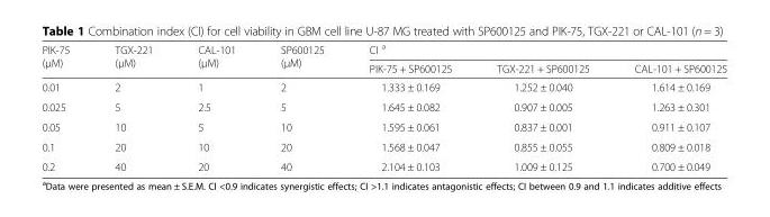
<table><thead><tr><td rowspan="2">PIK-75 (μM)</td><td rowspan="2">TGX-221 (μM)</td><td rowspan="2">CAL-101 (μM)</td><td rowspan="2">SP600125 (μM)</td><td colspan="3">CI <sup>a</sup></td></tr><tr><td>PIK-75 + SP600125</td><td>TGX-221 + SP600125</td><td>CAL-101 + SP600125</td></tr></thead><tbody><tr><td>0.01</td><td>2</td><td>1</td><td>2</td><td>1.333 ± 0.169</td><td>1.252 ± 0.040</td><td>1.614 ± 0.169</td></tr><tr><td>0.025</td><td>5</td><td>2.5</td><td>5</td><td>1.645 ± 0.082</td><td>0.907 ± 0.005</td><td>1.263 ± 0.301</td></tr><tr><td>0.05</td><td>10</td><td>5</td><td>10</td><td>1.595 ± 0.061</td><td>0.837 ± 0.001</td><td>0.911 ± 0.107</td></tr><tr><td>0.1</td><td>20</td><td>10</td><td>20</td><td>1.568 ± 0.047</td><td>0.855 ± 0.055</td><td>0.809 ± 0.018</td></tr><tr><td>0.2</td><td>40</td><td>20</td><td>40</td><td>2.104 ± 0.103</td><td>1.009 ± 0.125</td><td>0.700 ± 0.049</td></tr></tbody></table>